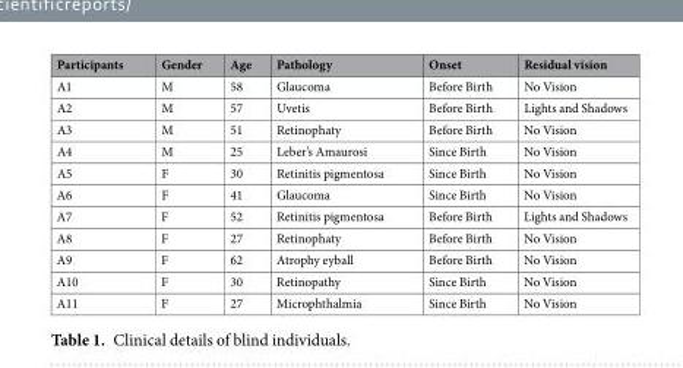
<table><thead><tr><td>Participants</td><td>Gender</td><td>Age</td><td>Pathology</td><td>Onset</td><td>Residual vision</td></tr></thead><tbody><tr><td>A1</td><td>M</td><td>58</td><td>Glaucoma</td><td>Before Birth</td><td>No Vision</td></tr><tr><td>A2</td><td>M</td><td>57</td><td>Uvetis</td><td>Before Birth</td><td>Lights and Shadows</td></tr><tr><td>A3</td><td>M</td><td>51</td><td>Retinophaty</td><td>Before Birth</td><td>No Vision</td></tr><tr><td>A4</td><td>M</td><td>25</td><td>Leber’s Amaurosi</td><td>Since Birth</td><td>No Vision</td></tr><tr><td>A5</td><td>F</td><td>30</td><td>Retinitis pigmentosa</td><td>Since Birth</td><td>No Vision</td></tr><tr><td>A6</td><td>F</td><td>41</td><td>Glaucoma</td><td>Since Birth</td><td>No Vision</td></tr><tr><td>A7</td><td>F</td><td>52</td><td>Retinitis pigmentosa</td><td>Before Birth</td><td>Lights and Shadows</td></tr><tr><td>A8</td><td>F</td><td>27</td><td>Retinophaty</td><td>Before Birth</td><td>No Vision</td></tr><tr><td>A9</td><td>F</td><td>62</td><td>Atrophy eyball</td><td>Before Birth</td><td>No Vision</td></tr><tr><td>A10</td><td>F</td><td>30</td><td>Retinopathy</td><td>Since Birth</td><td>No Vision</td></tr><tr><td>A11</td><td>F</td><td>27</td><td>Microphthalmia</td><td>Since Birth</td><td>No Vision</td></tr></tbody></table>